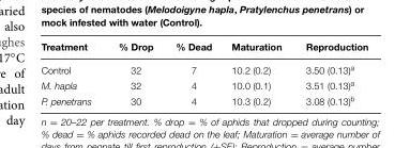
<table><thead><tr><td>Treatment</td><td>% Drop</td><td>% Dead</td><td>Maturation</td><td>Reproduction</td></tr></thead><tbody><tr><td>Control</td><td>32</td><td>7</td><td>10.2 (0.2)</td><td>3.50 (0.13)<sup>a</sup></td></tr><tr><td>M. hapla</td><td>32</td><td>4</td><td>10.0 (0.1)</td><td>3.51 (0.13)<sup>a</sup></td></tr><tr><td>P. penetrans</td><td>30</td><td>4</td><td>10.3 (0.2)</td><td>3.08 (0.13)<sup>b</sup></td></tr></tbody></table>